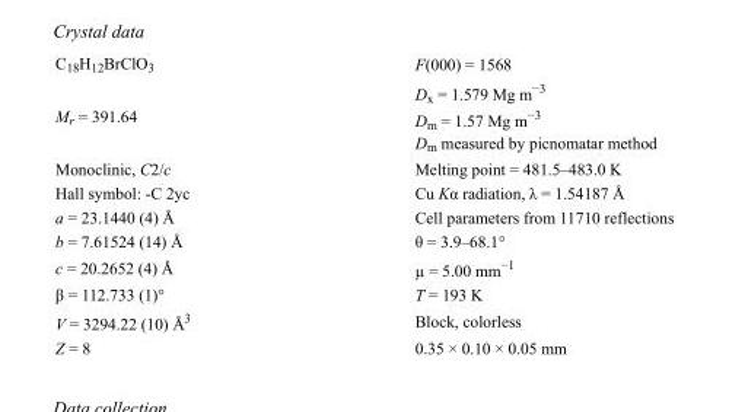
<table><tbody><tr><td>C<sub>18</sub>H<sub>12</sub>BrClO<sub>3</sub></td><td>F(000) = 1568</td></tr><tr><td>M<sub>r</sub> = 391.64</td><td>D<sub>x</sub> = 1.579 Mg m<sup>−3</sup> D<sub>m</sub> = 1.57 Mg m<sup>−3</sup> D<sub>m</sub> measured by picnomatar method</td></tr><tr><td>Monoclinic, C2/c</td><td>Melting point = 481.5–483.0 K</td></tr><tr><td>Hall symbol: -C 2yc</td><td>Cu Kα radiation, λ = 1.54187 Å</td></tr><tr><td>a = 23.1440 (4) Å</td><td>Cell parameters from 11710 reflections</td></tr><tr><td>b = 7.61524 (14) Å</td><td>θ = 3.9–68.1°</td></tr><tr><td>c = 20.2652 (4) Å</td><td>µ = 5.00 mm<sup>−1</sup></td></tr><tr><td>β = 112.733 (1)°</td><td>T = 193 K</td></tr><tr><td>V = 3294.22 (10) Å<sup>3</sup></td><td>Block, colorless</td></tr><tr><td>Z = 8</td><td>0.35 × 0.10 × 0.05 mm</td></tr></tbody></table>